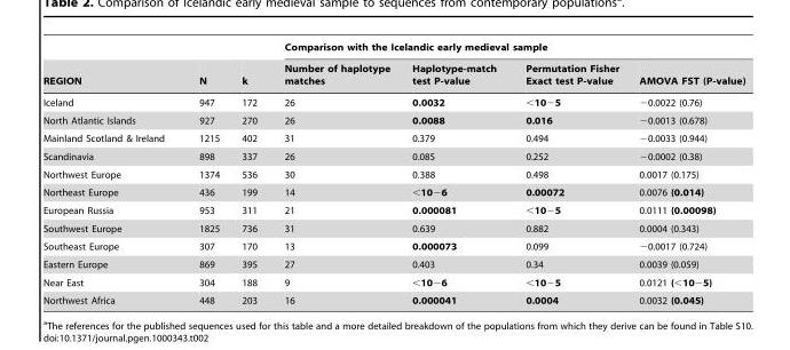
<table><thead><tr><td rowspan="2">REGION</td><td rowspan="2">N</td><td rowspan="2">k</td><td colspan="4">Comparison with the Icelandic early medieval sample</td></tr><tr><td>Number of haplotype matches</td><td>Haplotype-match test P-value</td><td>Permutation Fisher Exact test P-value</td><td>AMOVA FST (P-value)</td></tr></thead><tbody><tr><td>Iceland</td><td>947</td><td>172</td><td>26</td><td>0.0032</td><td>&lt;10−5</td><td>−0.0022 (0.76)</td></tr><tr><td>North Atlantic Islands</td><td>927</td><td>270</td><td>26</td><td>0.0088</td><td>0.016</td><td>−0.0013 (0.678)</td></tr><tr><td>Mainland Scotland &amp; Ireland</td><td>1215</td><td>402</td><td>31</td><td>0.379</td><td>0.494</td><td>−0.0033 (0.944)</td></tr><tr><td>Scandinavia</td><td>898</td><td>337</td><td>26</td><td>0.085</td><td>0.252</td><td>−0.0002 (0.38)</td></tr><tr><td>Northwest Europe</td><td>1374</td><td>536</td><td>30</td><td>0.388</td><td>0.498</td><td>0.0017 (0.175)</td></tr><tr><td>Northeast Europe</td><td>436</td><td>199</td><td>14</td><td>&lt;10−6</td><td>0.00072</td><td>0.0076 (0.014)</td></tr><tr><td>European Russia</td><td>953</td><td>311</td><td>21</td><td>0.000081</td><td>&lt;10−5</td><td>0.0111 (0.00098)</td></tr><tr><td>Southwest Europe</td><td>1825</td><td>736</td><td>31</td><td>0.639</td><td>0.882</td><td>0.0004 (0.343)</td></tr><tr><td>Southeast Europe</td><td>307</td><td>170</td><td>13</td><td>0.000073</td><td>0.099</td><td>−0.0017 (0.724)</td></tr><tr><td>Eastern Europe</td><td>869</td><td>395</td><td>27</td><td>0.403</td><td>0.34</td><td>0.0039 (0.059)</td></tr><tr><td>Near East</td><td>304</td><td>188</td><td>9</td><td>&lt;10−6</td><td>&lt;10−5</td><td>0.0121 (&lt;10−5)</td></tr><tr><td>Northwest Africa</td><td>448</td><td>203</td><td>16</td><td>0.000041</td><td>0.0004</td><td>0.0032 (0.045)</td></tr></tbody></table>